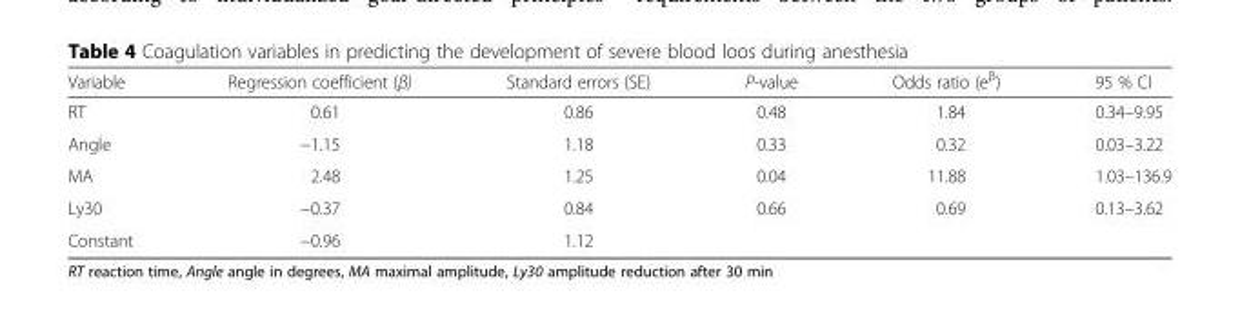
<table><thead><tr><td>Variable</td><td>Regression coefficient (β)</td><td>Standard errors (SE)</td><td>P-value</td><td>Odds ratio (e<sup>β</sup>)</td><td>95 % CI</td></tr></thead><tbody><tr><td>RT</td><td>0.61</td><td>0.86</td><td>0.48</td><td>1.84</td><td>0.34–9.95</td></tr><tr><td>Angle</td><td>−1.15</td><td>1.18</td><td>0.33</td><td>0.32</td><td>0.03–3.22</td></tr><tr><td>MA</td><td>2.48</td><td>1.25</td><td>0.04</td><td>11.88</td><td>1.03–136.9</td></tr><tr><td>Ly30</td><td>−0.37</td><td>0.84</td><td>0.66</td><td>0.69</td><td>0.13–3.62</td></tr><tr><td>Constant</td><td>−0.96</td><td>1.12</td><td></td><td></td><td></td></tr></tbody></table>